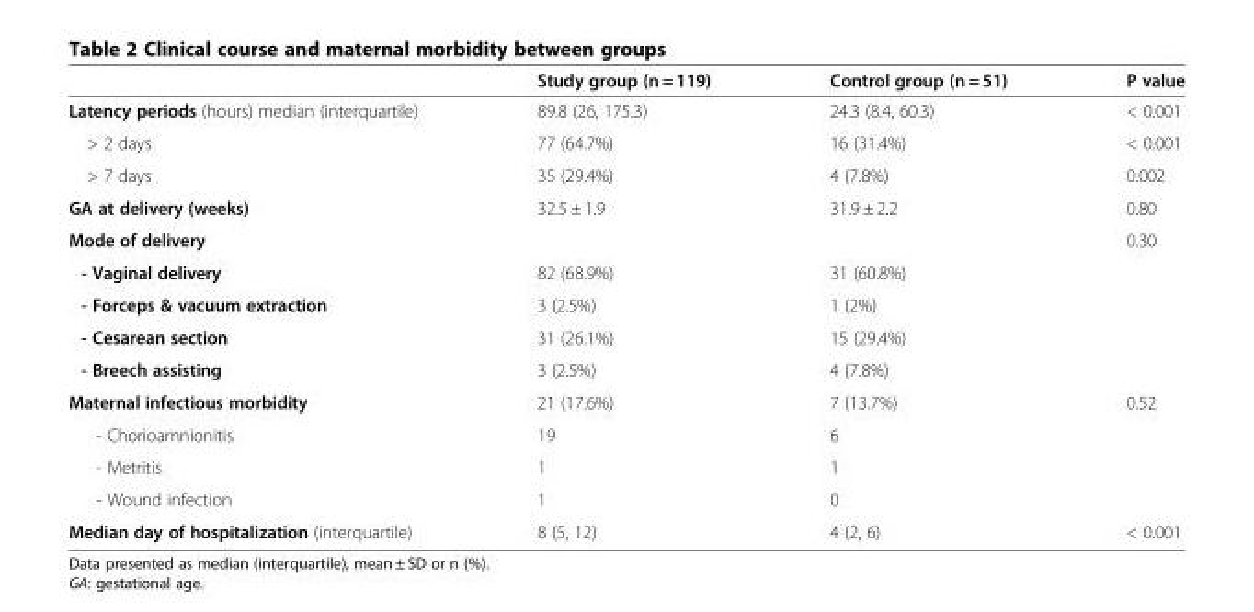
<table><thead><tr><td></td><td>Study group (n = 119)</td><td>Control group (n = 51)</td><td>P value</td></tr></thead><tbody><tr><td>Latency periods (hours) median (interquartile)</td><td>89.8 (26, 175.3)</td><td>24.3 (8.4, 60.3)</td><td>&lt; 0.001</td></tr><tr><td>&gt; 2 days</td><td>77 (64.7%)</td><td>16 (31.4%)</td><td>&lt; 0.001</td></tr><tr><td>&gt; 7 days</td><td>35 (29.4%)</td><td>4 (7.8%)</td><td>0.002</td></tr><tr><td>GA at delivery (weeks)</td><td>32.5 ± 1.9</td><td>31.9 ± 2.2</td><td>0.80</td></tr><tr><td>Mode of delivery</td><td></td><td></td><td>0.30</td></tr><tr><td>- Vaginal delivery</td><td>82 (68.9%)</td><td>31 (60.8%)</td><td></td></tr><tr><td>- Forceps &amp; vacuum extraction</td><td>3 (2.5%)</td><td>1 (2%)</td><td></td></tr><tr><td>- Cesarean section</td><td>31 (26.1%)</td><td>15 (29.4%)</td><td></td></tr><tr><td>- Breech assisting</td><td>3 (2.5%)</td><td>4 (7.8%)</td><td></td></tr><tr><td>Maternal infectious morbidity</td><td>21 (17.6%)</td><td>7 (13.7%)</td><td>0.52</td></tr><tr><td>- Chorioamnionitis</td><td>19</td><td>6</td><td></td></tr><tr><td>- Metritis</td><td>1</td><td>1</td><td></td></tr><tr><td>- Wound infection</td><td>1</td><td>0</td><td></td></tr><tr><td>Median day of hospitalization (interquartile)</td><td>8 (5, 12)</td><td>4 (2, 6)</td><td>&lt; 0.001</td></tr></tbody></table>